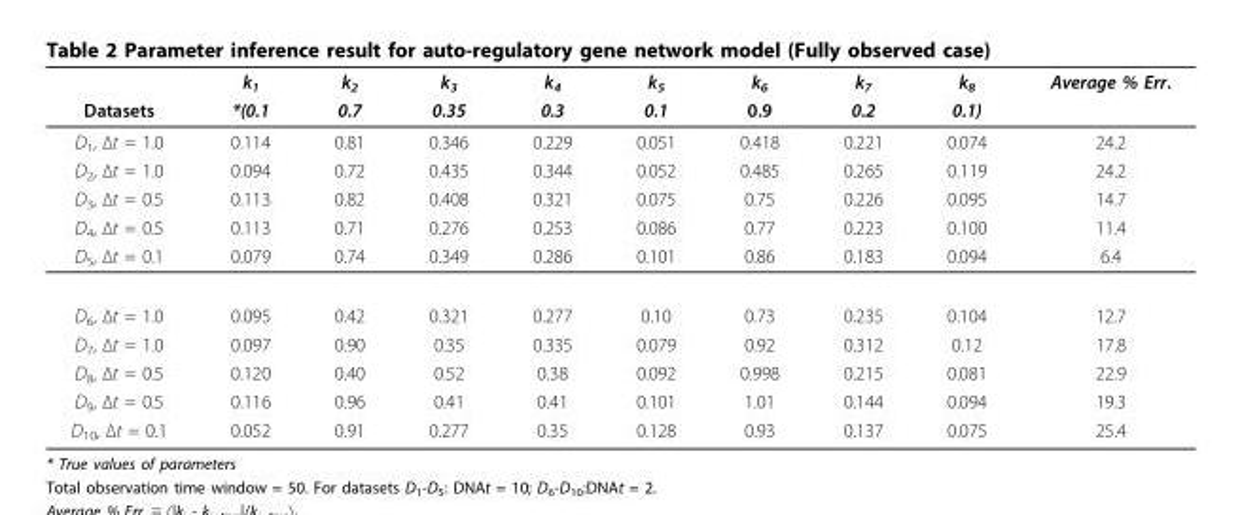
<table><thead><tr><td rowspan="2">Datasets</td><td rowspan="2">k<sub>1</sub> *(0.1</td><td rowspan="2">k<sub>2</sub> 0.7</td><td rowspan="2">k3 0.35</td><td rowspan="2">k<sub>4</sub> 0.3</td><td rowspan="2">k<sub>5</sub> 0.1</td><td rowspan="2">k<sub>6</sub> 0.9</td><td rowspan="2">k<sub>7</sub> 0.2</td><td rowspan="2">k<sub>8</sub> 0.1)</td><td rowspan="2">Average % Err.</td></tr><tr></tr></thead><tbody><tr><td>D<sub>1</sub>, Δt = 1.0</td><td>0.114</td><td>0.81</td><td>0.346</td><td>0.229</td><td>0.051</td><td>0.418</td><td>0.221</td><td>0.074</td><td>24.2</td></tr><tr><td>D<sub>2</sub>, Δt = 1.0</td><td>0.094</td><td>0.72</td><td>0.435</td><td>0.344</td><td>0.052</td><td>0.485</td><td>0.265</td><td>0.119</td><td>24.2</td></tr><tr><td>D<sub>3</sub>, Δt = 0.5</td><td>0.113</td><td>0.82</td><td>0.408</td><td>0.321</td><td>0.075</td><td>0.75</td><td>0.226</td><td>0.095</td><td>14.7</td></tr><tr><td>D<sub>4</sub>, Δt = 0.5</td><td>0.113</td><td>0.71</td><td>0.276</td><td>0.253</td><td>0.086</td><td>0.77</td><td>0.223</td><td>0.100</td><td>11.4</td></tr><tr><td>D<sub>5</sub>, Δt = 0.1</td><td>0.079</td><td>0.74</td><td>0.349</td><td>0.286</td><td>0.101</td><td>0.86</td><td>0.183</td><td>0.094</td><td>6.4</td></tr><tr><td>D<sub>6</sub>, Δt = 1.0</td><td>0.095</td><td>0.42</td><td>0.321</td><td>0.277</td><td>0.10</td><td>0.73</td><td>0.235</td><td>0.104</td><td>12.7</td></tr><tr><td>D<sub>7</sub>, Δt = 1.0</td><td>0.097</td><td>0.90</td><td>0.35</td><td>0.335</td><td>0.079</td><td>0.92</td><td>0.312</td><td>0.12</td><td>17.8</td></tr><tr><td>D<sub>8</sub>, Δt = 0.5</td><td>0.120</td><td>0.40</td><td>0.52</td><td>0.38</td><td>0.092</td><td>0.998</td><td>0.215</td><td>0.081</td><td>22.9</td></tr><tr><td>D<sub>9</sub>, Δt = 0.5</td><td>0.116</td><td>0.96</td><td>0.41</td><td>0.41</td><td>0.101</td><td>1.01</td><td>0.144</td><td>0.094</td><td>19.3</td></tr><tr><td>D<sub>10</sub>, Δt = 0.1</td><td>0.052</td><td>0.91</td><td>0.277</td><td>0.35</td><td>0.128</td><td>0.93</td><td>0.137</td><td>0.075</td><td>25.4</td></tr></tbody></table>